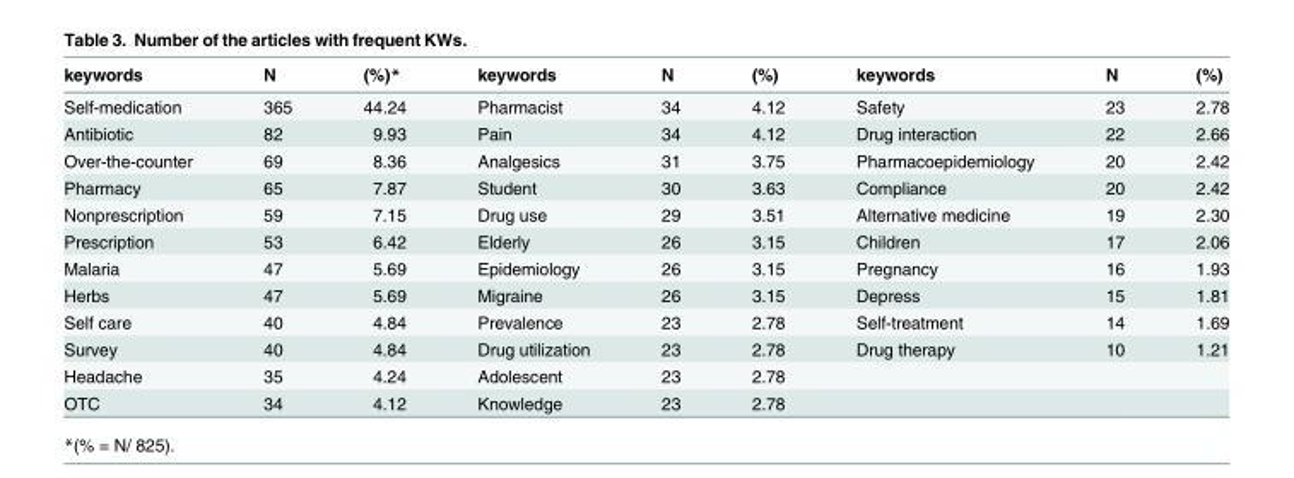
<table><thead><tr><td>keywords</td><td>N</td><td>(%)*</td><td>keywords</td><td>N</td><td>(%)</td><td>keywords</td><td>N</td><td>(%)</td></tr></thead><tbody><tr><td>Self-medication</td><td>365</td><td>44.24</td><td>Pharmacist</td><td>34</td><td>4.12</td><td>Safety</td><td>23</td><td>2.78</td></tr><tr><td>Antibiotic</td><td>82</td><td>9.93</td><td>Pain</td><td>34</td><td>4.12</td><td>Drug interaction</td><td>22</td><td>2.66</td></tr><tr><td>Over-the-counter</td><td>69</td><td>8.36</td><td>Analgesics</td><td>31</td><td>3.75</td><td>Pharmacoepidemiology</td><td>20</td><td>2.42</td></tr><tr><td>Pharmacy</td><td>65</td><td>7.87</td><td>Student</td><td>30</td><td>3.63</td><td>Compliance</td><td>20</td><td>2.42</td></tr><tr><td>Nonprescription</td><td>59</td><td>7.15</td><td>Drug use</td><td>29</td><td>3.51</td><td>Alternative medicine</td><td>19</td><td>2.30</td></tr><tr><td>Prescription</td><td>53</td><td>6.42</td><td>Elderly</td><td>26</td><td>3.15</td><td>Children</td><td>17</td><td>2.06</td></tr><tr><td>Malaria</td><td>47</td><td>5.69</td><td>Epidemiology</td><td>26</td><td>3.15</td><td>Pregnancy</td><td>16</td><td>1.93</td></tr><tr><td>Herbs</td><td>47</td><td>5.69</td><td>Migraine</td><td>26</td><td>3.15</td><td>Depress</td><td>15</td><td>1.81</td></tr><tr><td>Self care</td><td>40</td><td>4.84</td><td>Prevalence</td><td>23</td><td>2.78</td><td>Self-treatment</td><td>14</td><td>1.69</td></tr><tr><td>Survey</td><td>40</td><td>4.84</td><td>Drug utilization</td><td>23</td><td>2.78</td><td>Drug therapy</td><td>10</td><td>1.21</td></tr><tr><td>Headache</td><td>35</td><td>4.24</td><td>Adolescent</td><td>23</td><td>2.78</td><td></td><td></td><td></td></tr><tr><td>OTC</td><td>34</td><td>4.12</td><td>Knowledge</td><td>23</td><td>2.78</td><td></td><td></td><td></td></tr></tbody></table>